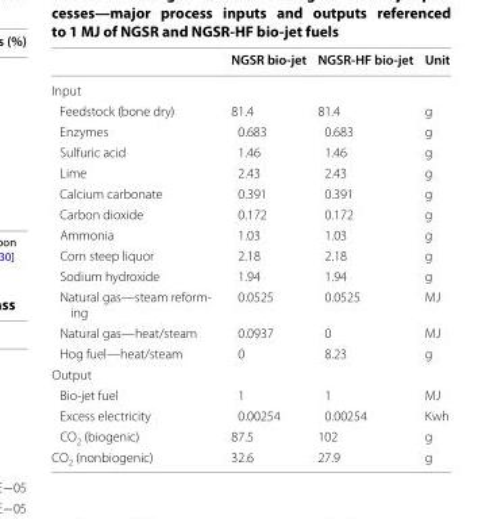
<table><thead><tr><td></td><td>NGSR bio-jet</td><td>NGSR-HF bio-jet</td><td>Unit</td></tr></thead><tbody><tr><td colspan="4">Input</td></tr><tr><td>Feedstock (bone dry)</td><td>81.4</td><td>81.4</td><td>g</td></tr><tr><td>Enzymes</td><td>0.683</td><td>0.683</td><td>g</td></tr><tr><td>Sulfuric acid</td><td>1.46</td><td>1.46</td><td>g</td></tr><tr><td>Lime</td><td>2.43</td><td>2.43</td><td>g</td></tr><tr><td>Calcium carbonate</td><td>0.391</td><td>0.391</td><td>g</td></tr><tr><td>Carbon dioxide</td><td>0.172</td><td>0.172</td><td>g</td></tr><tr><td>Ammonia</td><td>1.03</td><td>1.03</td><td>g</td></tr><tr><td>Corn steep liquor</td><td>2.18</td><td>2.18</td><td>g</td></tr><tr><td>Sodium hydroxide</td><td>1.94</td><td>1.94</td><td>g</td></tr><tr><td>Natural gas—steam reform- ing</td><td>0.0525</td><td>0.0525</td><td>MJ</td></tr><tr><td>Natural gas—heat/steam</td><td>0.0937</td><td>0</td><td>MJ</td></tr><tr><td>Hog fuel—heat/steam</td><td>0</td><td>8.23</td><td>g</td></tr><tr><td colspan="4">Output</td></tr><tr><td>Bio-jet fuel</td><td>1</td><td>1</td><td>MJ</td></tr><tr><td>Excess electricity</td><td>0.00254</td><td>0.00254</td><td>Kwh</td></tr><tr><td>CO<sub>2</sub> (biogenic)</td><td>87.5</td><td>102</td><td>g</td></tr><tr><td>CO<sub>2</sub> (nonbiogenic)</td><td>32.6</td><td>27.9</td><td>g</td></tr></tbody></table>